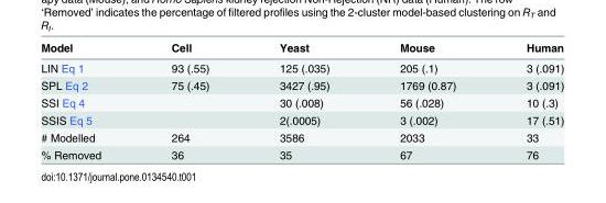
<table><thead><tr><td>Model</td><td>Cell</td><td>Yeast</td><td>Mouse</td><td>Human</td></tr></thead><tbody><tr><td>LIN Eq 1</td><td>93 (.55)</td><td>125 (.035)</td><td>205 (.1)</td><td>3 (.091)</td></tr><tr><td>SPL Eq 2</td><td>75 (.45)</td><td>3427 (.95)</td><td>1769 (0.87)</td><td>3 (.091)</td></tr><tr><td>SSI Eq 4</td><td></td><td>30 (.008)</td><td>56 (.028)</td><td>10 (.3)</td></tr><tr><td>SSIS Eq 5</td><td></td><td>2(.0005)</td><td>3 (.002)</td><td>17 (.51)</td></tr><tr><td># Modelled</td><td>264</td><td>3586</td><td>2033</td><td>33</td></tr><tr><td>% Removed</td><td>36</td><td>35</td><td>67</td><td>76</td></tr></tbody></table>